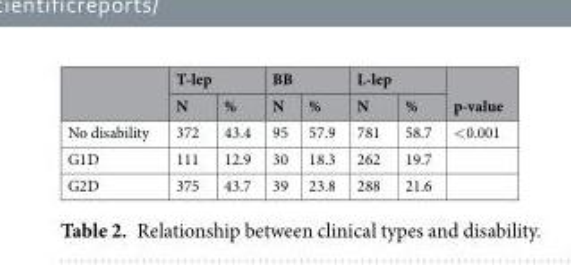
<table><thead><tr><td rowspan="2"></td><td colspan="2">T-lep</td><td colspan="2">BB</td><td colspan="2">L-lep</td><td rowspan="2">p-value</td></tr><tr><td>N</td><td>%</td><td>N</td><td>%</td><td>N</td><td>%</td></tr></thead><tbody><tr><td>No disability</td><td>372</td><td>43.4</td><td>95</td><td>57.9</td><td>781</td><td>58.7</td><td>&lt;0.001</td></tr><tr><td>G1D</td><td>111</td><td>12.9</td><td>30</td><td>18.3</td><td>262</td><td>19.7</td><td></td></tr><tr><td>G2D</td><td>375</td><td>43.7</td><td>39</td><td>23.8</td><td>288</td><td>21.6</td><td></td></tr></tbody></table>